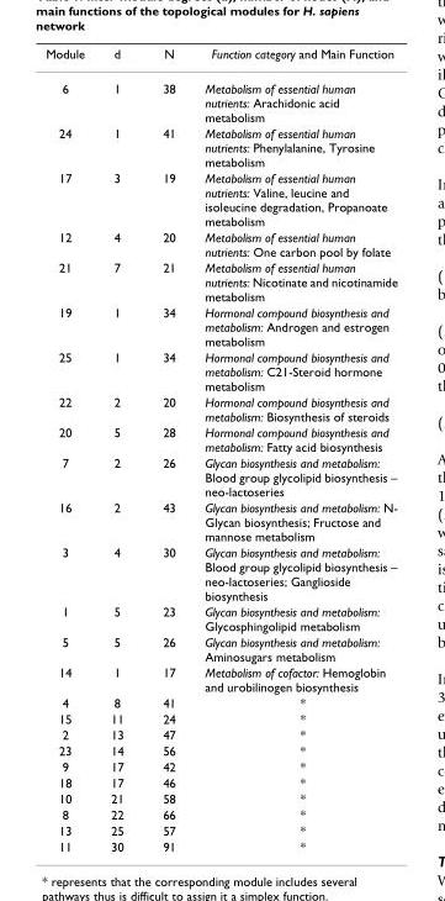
<table><thead><tr><td>Module</td><td>d</td><td>N</td><td>Function category and Main Function</td></tr></thead><tbody><tr><td>6</td><td>1</td><td>38</td><td>Metabolism of essential human nutrients: Arachidonic acid metabolism</td></tr><tr><td>24</td><td>1</td><td>41</td><td>Metabolism of essential human nutrients: Phenylalanine, Tyrosine metabolism</td></tr><tr><td>17</td><td>3</td><td>19</td><td>Metabolism of essential human nutrients: Valine, leucine and isoleucine degradation, Propanoate metabolism</td></tr><tr><td>12</td><td>4</td><td>20</td><td>Metabolism of essential human nutrients: One carbon pool by folate</td></tr><tr><td>21</td><td>7</td><td>21</td><td>Metabolism of essential human nutrients: Nicotinate and nicotinamide metabolism</td></tr><tr><td>19</td><td>1</td><td>34</td><td>Hormonal compound biosynthesis and metabolism: Androgen and estrogen metabolism</td></tr><tr><td>25</td><td>1</td><td>34</td><td>Hormonal compound biosynthesis and metabolism: C21-Steroid hormone metabolism</td></tr><tr><td>22</td><td>2</td><td>20</td><td>Hormonal compound biosynthesis and metabolism: Biosynthesis of steroids</td></tr><tr><td>20</td><td>5</td><td>28</td><td>Hormonal compound biosynthesis and metabolism: Fatty acid biosynthesis</td></tr><tr><td>7</td><td>2</td><td>26</td><td>Glycan biosynthesis and metabolism: Blood group glycolipid biosynthesis – neo-lactoseries</td></tr><tr><td>16</td><td>2</td><td>43</td><td>Glycan biosynthesis and metabolism: N- Glycan biosynthesis; Fructose and mannose metabolism</td></tr><tr><td>3</td><td>4</td><td>30</td><td>Glycan biosynthesis and metabolism: Blood group glycolipid biosynthesis – neo-lactoseries; Ganglioside biosynthesis</td></tr><tr><td>1</td><td>5</td><td>23</td><td>Glycan biosynthesis and metabolism: Glycosphingolipid metabolism</td></tr><tr><td>5</td><td>5</td><td>26</td><td>Glycan biosynthesis and metabolism: Aminosugars metabolism</td></tr><tr><td>14</td><td>1</td><td>17</td><td>Metabolism of cofactor: Hemoglobin and urobilinogen biosynthesis</td></tr><tr><td>4</td><td>8</td><td>41</td><td>*</td></tr><tr><td>15</td><td>11</td><td>24</td><td>*</td></tr><tr><td>2</td><td>13</td><td>47</td><td>*</td></tr><tr><td>23</td><td>14</td><td>56</td><td>*</td></tr><tr><td>9</td><td>17</td><td>42</td><td>*</td></tr><tr><td>18</td><td>17</td><td>46</td><td>*</td></tr><tr><td>10</td><td>21</td><td>58</td><td>*</td></tr><tr><td>8</td><td>22</td><td>66</td><td>*</td></tr><tr><td>13</td><td>25</td><td>57</td><td>*</td></tr><tr><td>11</td><td>30</td><td>91</td><td>*</td></tr></tbody></table>